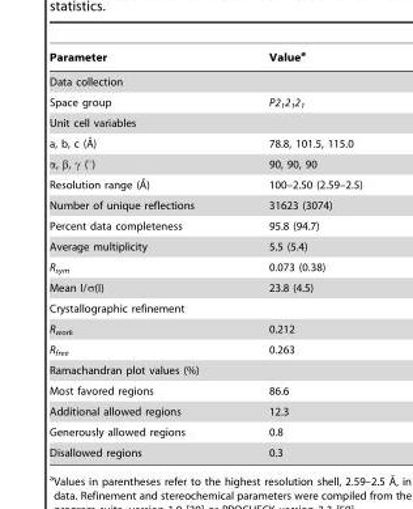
<table><thead><tr><td>Parameter</td><td>Value<sup>a</sup></td></tr></thead><tbody><tr><td colspan="2">Data collection</td></tr><tr><td>Space group</td><td>P2<sub>1</sub>2<sub>1</sub>2<sub>1</sub></td></tr><tr><td colspan="2">Unit cell variables</td></tr><tr><td>a, b, c (A˚)</td><td>78.8, 101.5, 115.0</td></tr><tr><td>α, β, γ (°)</td><td>90, 90, 90</td></tr><tr><td>Resolution range (A˚)</td><td>100–2.50 (2.59–2.5)</td></tr><tr><td>Number of unique reflections</td><td>31623 (3074)</td></tr><tr><td>Percent data completeness</td><td>95.8 (94.7)</td></tr><tr><td>Average multiplicity</td><td>5.5 (5.4)</td></tr><tr><td>R<sub>sym</sub></td><td>0.073 (0.38)</td></tr><tr><td>Mean I/σ(I)</td><td>23.8 (4.5)</td></tr><tr><td colspan="2">Crystallographic refinement</td></tr><tr><td>R<sub>work</sub></td><td>0.212</td></tr><tr><td>R<sub>free</sub></td><td>0.263</td></tr><tr><td colspan="2">Ramachandran plot values (%)</td></tr><tr><td>Most favored regions</td><td>86.6</td></tr><tr><td>Additional allowed regions</td><td>12.3</td></tr><tr><td>Generously allowed regions</td><td>0.8</td></tr><tr><td>Disallowed regions</td><td>0.3</td></tr></tbody></table>